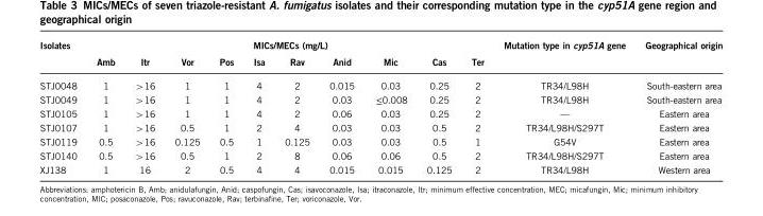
<table><thead><tr><td rowspan="2">Isolates</td><td colspan="10">MICs/MECs (mg/L)</td><td rowspan="2">Mutation type in cyp51A gene</td><td rowspan="2">Geographical origin</td></tr><tr><td>Amb</td><td>Itr</td><td>Vor</td><td>Pos</td><td>Isa</td><td>Rav</td><td>Anid</td><td>Mic</td><td>Cas</td><td>Ter</td></tr></thead><tbody><tr><td>STJ0048</td><td>1</td><td>&gt;16</td><td>1</td><td>1</td><td>4</td><td>2</td><td>0.015</td><td>0.03</td><td>0.25</td><td>2</td><td>TR34/L98H</td><td>South-eastern area</td></tr><tr><td>STJ0049</td><td>1</td><td>&gt;16</td><td>1</td><td>1</td><td>4</td><td>2</td><td>0.03</td><td>≤0.008</td><td>0.25</td><td>2</td><td>TR34/L98H</td><td>South-eastern area</td></tr><tr><td>STJ0105</td><td>1</td><td>&gt;16</td><td>1</td><td>1</td><td>4</td><td>2</td><td>0.06</td><td>0.03</td><td>0.25</td><td>2</td><td>—</td><td>Eastern area</td></tr><tr><td>STJ0107</td><td>1</td><td>&gt;16</td><td>0.5</td><td>1</td><td>2</td><td>4</td><td>0.03</td><td>0.03</td><td>0.5</td><td>2</td><td>TR34/L98H/S297T</td><td>Eastern area</td></tr><tr><td>STJ0119</td><td>0.5</td><td>&gt;16</td><td>0.125</td><td>0.5</td><td>1</td><td>0.125</td><td>0.03</td><td>0.03</td><td>0.5</td><td>1</td><td>G54V</td><td>Eastern area</td></tr><tr><td>STJ0140</td><td>0.5</td><td>&gt;16</td><td>0.5</td><td>1</td><td>2</td><td>8</td><td>0.06</td><td>0.06</td><td>0.5</td><td>2</td><td>TR34/L98H/S297T</td><td>Eastern area</td></tr><tr><td>XJ138</td><td>1</td><td>16</td><td>2</td><td>0.5</td><td>4</td><td>4</td><td>0.015</td><td>0.015</td><td>0.125</td><td>2</td><td>TR34/L98H</td><td>Western area</td></tr></tbody></table>